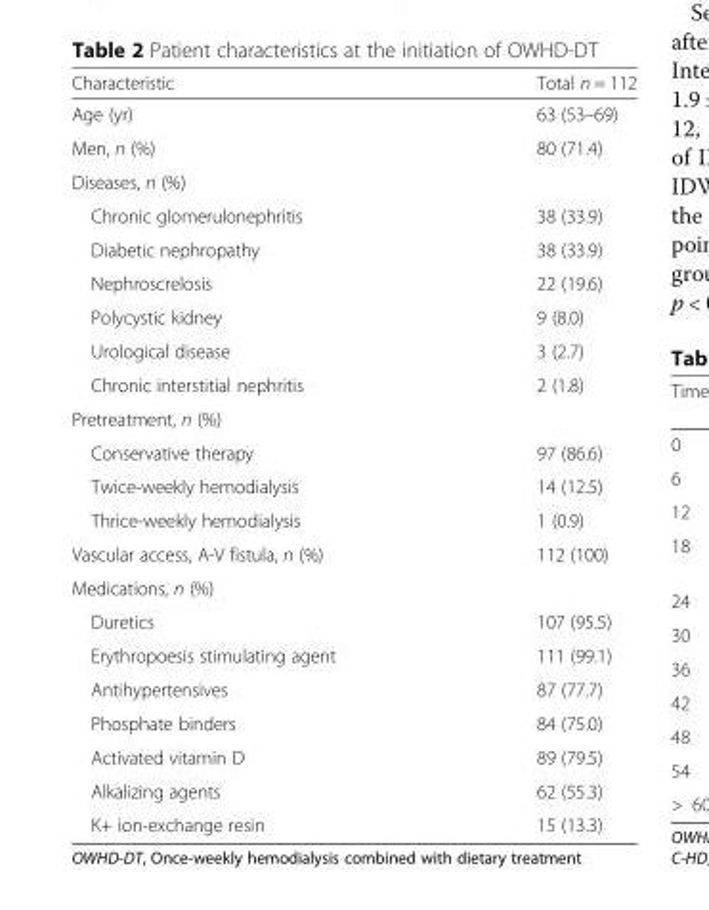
<table><thead><tr><td>Characteristic</td><td>Total n = 112</td></tr></thead><tbody><tr><td>Age (yr)</td><td>63 (53–69)</td></tr><tr><td>Men, n (%)</td><td>80 (71.4)</td></tr><tr><td colspan="2">Diseases, n (%)</td></tr><tr><td>Chronic glomerulonephritis</td><td>38 (33.9)</td></tr><tr><td>Diabetic nephropathy</td><td>38 (33.9)</td></tr><tr><td>Nephroscrelosis</td><td>22 (19.6)</td></tr><tr><td>Polycystic kidney</td><td>9 (8.0)</td></tr><tr><td>Urological disease</td><td>3 (2.7)</td></tr><tr><td>Chronic interstitial nephritis</td><td>2 (1.8)</td></tr><tr><td colspan="2">Pretreatment, n (%)</td></tr><tr><td>Conservative therapy</td><td>97 (86.6)</td></tr><tr><td>Twice-weekly hemodialysis</td><td>14 (12.5)</td></tr><tr><td>Thrice-weekly hemodialysis</td><td>1 (0.9)</td></tr><tr><td>Vascular access, A-V fistula, n (%)</td><td>112 (100)</td></tr><tr><td colspan="2">Medications, n (%)</td></tr><tr><td>Duretics</td><td>107 (95.5)</td></tr><tr><td>Erythropoesis stimulating agent</td><td>111 (99.1)</td></tr><tr><td>Antihypertensives</td><td>87 (77.7)</td></tr><tr><td>Phosphate binders</td><td>84 (75.0)</td></tr><tr><td>Activated vitamin D</td><td>89 (79.5)</td></tr><tr><td>Alkalizing agents</td><td>62 (55.3)</td></tr><tr><td>K+ ion-exchange resin</td><td>15 (13.3)</td></tr></tbody></table>